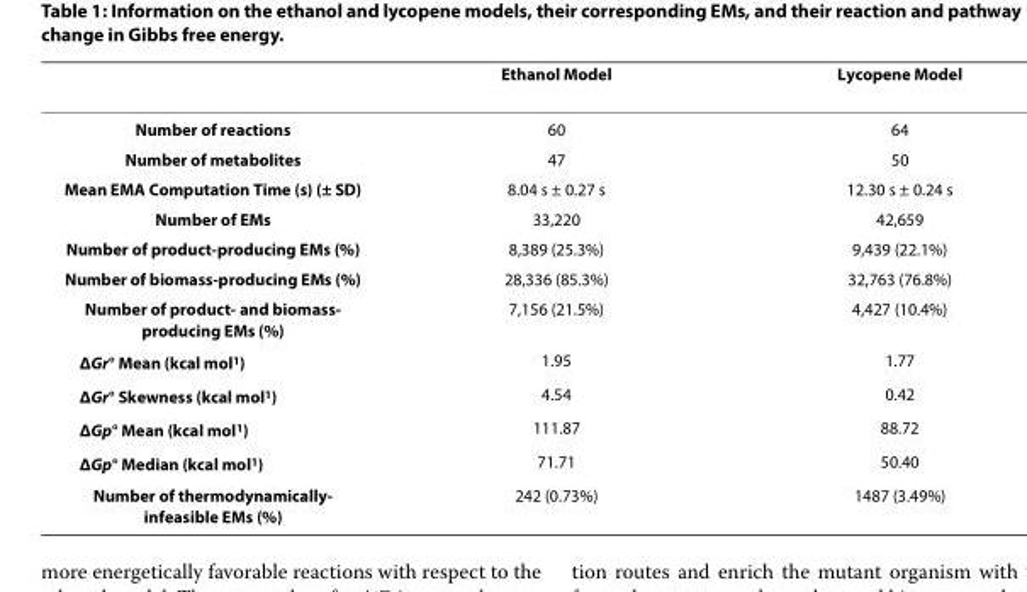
<table><thead><tr><td></td><td>Ethanol Model</td><td>Lycopene Model</td></tr></thead><tbody><tr><td>Number of reactions</td><td>60</td><td>64</td></tr><tr><td>Number of metabolites</td><td>47</td><td>50</td></tr><tr><td>Mean EMA Computation Time (s) (± SD)</td><td>8.04 s ± 0.27 s</td><td>12.30 s ± 0.24 s</td></tr><tr><td>Number of EMs</td><td>33,220</td><td>42,659</td></tr><tr><td>Number of product-producing EMs (%)</td><td>8,389 (25.3%)</td><td>9,439 (22.1%)</td></tr><tr><td>Number of biomass-producing EMs (%)</td><td>28,336 (85.3%)</td><td>32,763 (76.8%)</td></tr><tr><td>Number of product- and biomass- producing EMs (%)</td><td>7,156 (21.5%)</td><td>4,427 (10.4%)</td></tr><tr><td>ΔG<sub>r</sub>° Mean (kcal mol<sup>1</sup>)</td><td>1.95</td><td>1.77</td></tr><tr><td>ΔG<sub>r</sub>° Skewness (kcal mol<sup>1</sup>)</td><td>4.54</td><td>0.42</td></tr><tr><td>ΔG<sub>p</sub>° Mean (kcal mol<sup>1</sup>)</td><td>111.87</td><td>88.72</td></tr><tr><td>ΔG<sub>p</sub>° Median (kcal mol<sup>1</sup>)</td><td>71.71</td><td>50.40</td></tr><tr><td>Number of thermodynamically- infeasible EMs (%)</td><td>242 (0.73%)</td><td>1487 (3.49%)</td></tr></tbody></table>